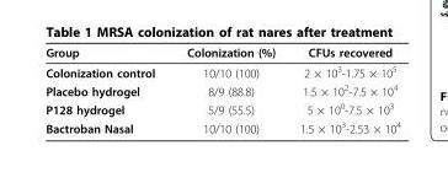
<table><thead><tr><td>Group</td><td>Colonization (%)</td><td>CFUs recovered</td></tr></thead><tbody><tr><td>Colonization control</td><td>10/10 (100)</td><td>2 × 10<sup>3</sup>-1.75 × 10<sup>5</sup></td></tr><tr><td>Placebo hydrogel</td><td>8/9 (88.8)</td><td>1.5 × 10<sup>2</sup>-7.5 × 10<sup>4</sup></td></tr><tr><td>P128 hydrogel</td><td>5/9 (55.5)</td><td>5 × 10<sup>0</sup>-7.5 × 10<sup>3</sup></td></tr><tr><td>Bactroban Nasal</td><td>10/10 (100)</td><td>1.5 × 10<sup>3</sup>-2.53 × 10<sup>4</sup></td></tr></tbody></table>